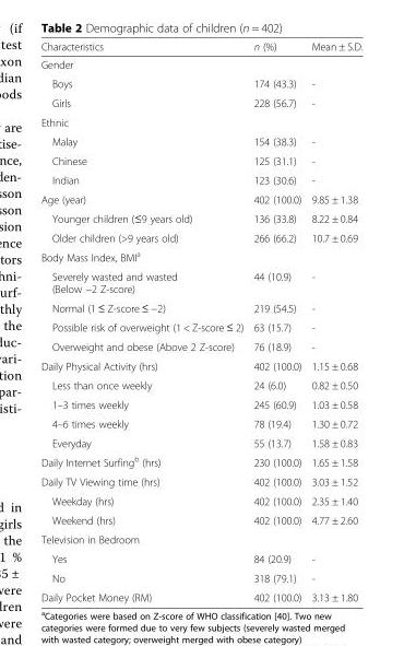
<table><thead><tr><td>Characteristics</td><td>n (%)</td><td>Mean ± S.D.</td></tr></thead><tbody><tr><td colspan="3">Gender</td></tr><tr><td>Boys</td><td>174 (43.3)</td><td>-</td></tr><tr><td>Girls</td><td>228 (56.7)</td><td>-</td></tr><tr><td colspan="3">Ethnic</td></tr><tr><td>Malay</td><td>154 (38.3)</td><td>-</td></tr><tr><td>Chinese</td><td>125 (31.1)</td><td>-</td></tr><tr><td>Indian</td><td>123 (30.6)</td><td>-</td></tr><tr><td>Age (year)</td><td>402 (100.0)</td><td>9.85 ± 1.38</td></tr><tr><td>Younger children (≤9 years old)</td><td>136 (33.8)</td><td>8.22 ± 0.84</td></tr><tr><td>Older children (&gt;9 years old)</td><td>266 (66.2)</td><td>10.7 ± 0.69</td></tr><tr><td colspan="3">Body Mass Index, BMI<sup>a</sup></td></tr><tr><td>Severely wasted and wasted (Below −2 Z-score)</td><td>44 (10.9)</td><td>-</td></tr><tr><td>Normal (1 ≤ Z-score ≤ −2)</td><td>219 (54.5)</td><td>-</td></tr><tr><td>Possible risk of overweight (1 &lt; Z-score ≤ 2)</td><td>63 (15.7)</td><td>-</td></tr><tr><td>Overweight and obese (Above 2 Z-score)</td><td>76 (18.9)</td><td>-</td></tr><tr><td>Daily Physical Activity (hrs)</td><td>402 (100.0)</td><td>1.15 ± 0.68</td></tr><tr><td>Less than once weekly</td><td>24 (6.0)</td><td>0.82 ± 0.50</td></tr><tr><td>1–3 times weekly</td><td>245 (60.9)</td><td>1.03 ± 0.58</td></tr><tr><td>4–6 times weekly</td><td>78 (19.4)</td><td>1.30 ± 0.72</td></tr><tr><td>Everyday</td><td>55 (13.7)</td><td>1.58 ± 0.83</td></tr><tr><td>Daily Internet Surfing<sup>b</sup> (hrs)</td><td>230 (100.0)</td><td>1.65 ± 1.58</td></tr><tr><td>Daily TV Viewing time (hrs)</td><td>402 (100.0)</td><td>3.03 ± 1.52</td></tr><tr><td>Weekday (hrs)</td><td>402 (100.0)</td><td>2.35 ± 1.40</td></tr><tr><td>Weekend (hrs)</td><td>402 (100.0)</td><td>4.77 ± 2.60</td></tr><tr><td colspan="3">Television in Bedroom</td></tr><tr><td>Yes</td><td>84 (20.9)</td><td>-</td></tr><tr><td>No</td><td>318 (79.1)</td><td>-</td></tr><tr><td>Daily Pocket Money (RM)</td><td>402 (100.0)</td><td>3.13 ± 1.80</td></tr></tbody></table>